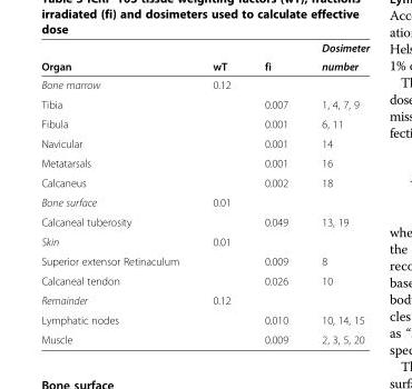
<table><thead><tr><td rowspan="2">Organ</td><td rowspan="2">wT</td><td rowspan="2">fi</td><td rowspan="2">Dosimeter number</td></tr><tr></tr></thead><tbody><tr><td>Bone marrow</td><td>0.12</td><td></td><td></td></tr><tr><td>Tibia</td><td></td><td>0.007</td><td>1, 4, 7, 9</td></tr><tr><td>Fibula</td><td></td><td>0.001</td><td>6, 11</td></tr><tr><td>Navicular</td><td></td><td>0.001</td><td>14</td></tr><tr><td>Metatarsals</td><td></td><td>0.001</td><td>16</td></tr><tr><td>Calcaneus</td><td></td><td>0.002</td><td>18</td></tr><tr><td>Bone surface</td><td>0.01</td><td></td><td></td></tr><tr><td>Calcaneal tuberosity</td><td></td><td>0.049</td><td>13, 19</td></tr><tr><td>Skin</td><td>0.01</td><td></td><td></td></tr><tr><td>Superior extensor Retinaculum</td><td></td><td>0.009</td><td>8</td></tr><tr><td>Calcaneal tendon</td><td></td><td>0.026</td><td>10</td></tr><tr><td>Remainder</td><td>0.12</td><td></td><td></td></tr><tr><td>Lymphatic nodes</td><td></td><td>0.010</td><td>10, 14, 15</td></tr><tr><td>Muscle</td><td></td><td>0.009</td><td>2, 3, 5, 20</td></tr></tbody></table>